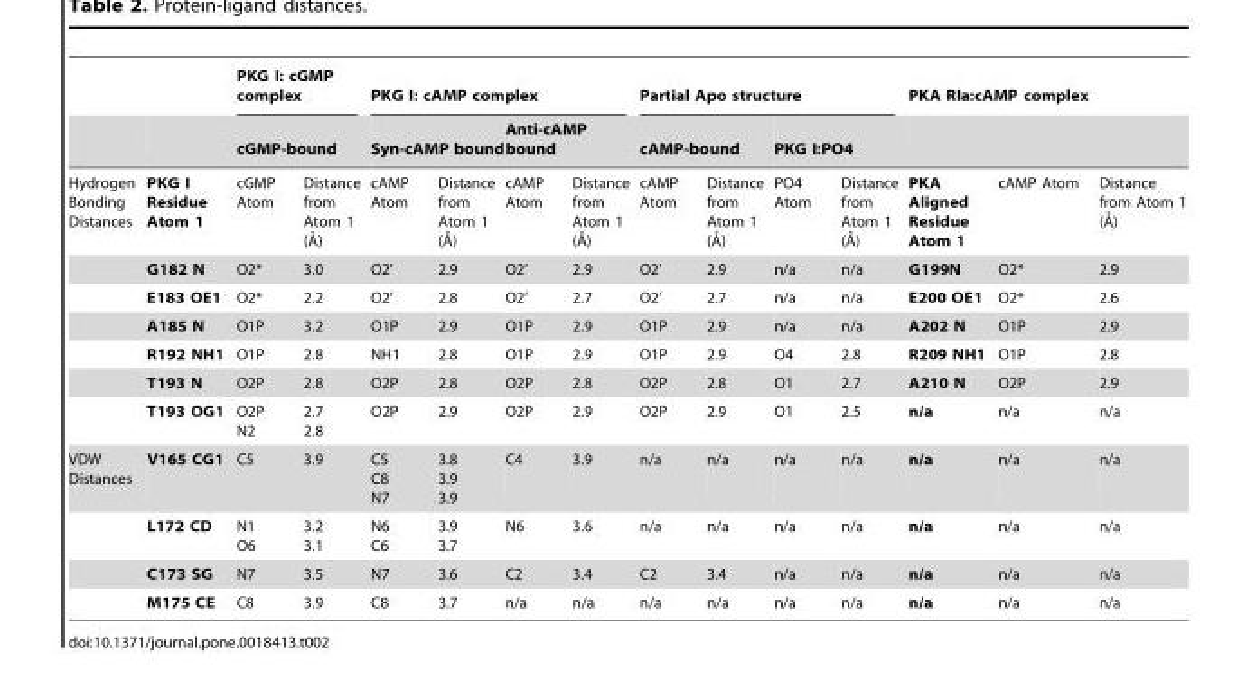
<table><thead><tr><td rowspan="3">Hydrogen Bonding Distances</td><td rowspan="3">PKG I Residue Atom 1</td><td rowspan="2" colspan="2">PKG I: cGMP complex cGMP-bound</td><td colspan="4">PKG I: cAMP complex</td><td colspan="4">Partial Apo structure</td><td colspan="3">PKA RIa:cAMP complex</td></tr><tr><td colspan="2">Syn-cAMP bound</td><td colspan="2">Anti-cAMP bound</td><td colspan="2">cAMP-bound</td><td colspan="2">PKG I:PO4</td><td rowspan="2">PKA Aligned Residue Atom 1</td><td rowspan="2">cAMP Atom</td><td rowspan="2">Distance from Atom 1 (A˚)</td></tr><tr><td>cGMP Atom</td><td>Distance from Atom 1 (A˚)</td><td>cAMP Atom</td><td>Distance from Atom 1 (A˚)</td><td>cAMP Atom</td><td>Distance from Atom 1 (A˚)</td><td>cAMP Atom</td><td>Distance from Atom 1 (A˚)</td><td>PO4 Atom</td><td>Distance from Atom 1 (A˚)</td></tr></thead><tbody><tr><td></td><td>G182 N</td><td>O2*</td><td>3.0</td><td>O2’</td><td>2.9</td><td>O2’</td><td>2.9</td><td>O2’</td><td>2.9</td><td>n/a</td><td>n/a</td><td>G199N</td><td>O2*</td><td>2.9</td></tr><tr><td></td><td>E183 OE1</td><td>O2*</td><td>2.2</td><td>O2’</td><td>2.8</td><td>O2’</td><td>2.7</td><td>O2’</td><td>2.7</td><td>n/a</td><td>n/a</td><td>E200 OE1</td><td>O2*</td><td>2.6</td></tr><tr><td></td><td>A185 N</td><td>O1P</td><td>3.2</td><td>O1P</td><td>2.9</td><td>O1P</td><td>2.9</td><td>O1P</td><td>2.9</td><td>n/a</td><td>n/a</td><td>A202 N</td><td>O1P</td><td>2.9</td></tr><tr><td></td><td>R192 NH1</td><td>O1P</td><td>2.8</td><td>NH1</td><td>2.8</td><td>O1P</td><td>2.9</td><td>O1P</td><td>2.9</td><td>O4</td><td>2.8</td><td>R209 NH1</td><td>O1P</td><td>2.8</td></tr><tr><td></td><td>T193 N</td><td>O2P</td><td>2.8</td><td>O2P</td><td>2.8</td><td>O2P</td><td>2.8</td><td>O2P</td><td>2.8</td><td>O1</td><td>2.7</td><td>A210 N</td><td>O2P</td><td>2.9</td></tr><tr><td></td><td>T193 OG1</td><td>O2P N2</td><td>2.7 2.8</td><td>O2P</td><td>2.9</td><td>O2P</td><td>2.9</td><td>O2P</td><td>2.9</td><td>O1</td><td>2.5</td><td>n/a</td><td>n/a</td><td>n/a</td></tr><tr><td rowspan="4">VDW Distances</td><td>V165 CG1</td><td>C5</td><td>3.9</td><td>C5 C8 N7</td><td>3.8 3.9 3.9</td><td>C4</td><td>3.9</td><td>n/a</td><td>n/a</td><td>n/a</td><td>n/a</td><td>n/a</td><td>n/a</td><td>n/a</td></tr><tr><td>L172 CD</td><td>N1 O6</td><td>3.2 3.1</td><td>N6 C6</td><td>3.9 3.7</td><td>N6</td><td>3.6</td><td>n/a</td><td>n/a</td><td>n/a</td><td>n/a</td><td>n/a</td><td>n/a</td><td>n/a</td></tr><tr><td>C173 SG</td><td>N7</td><td>3.5</td><td>N7</td><td>3.6</td><td>C2</td><td>3.4</td><td>C2</td><td>3.4</td><td>n/a</td><td>n/a</td><td>n/a</td><td>n/a</td><td>n/a</td></tr><tr><td>M175 CE</td><td>C8</td><td>3.9</td><td>C8</td><td>3.7</td><td>n/a</td><td>n/a</td><td>n/a</td><td>n/a</td><td>n/a</td><td>n/a</td><td>n/a</td><td>n/a</td><td>n/a</td></tr></tbody></table>